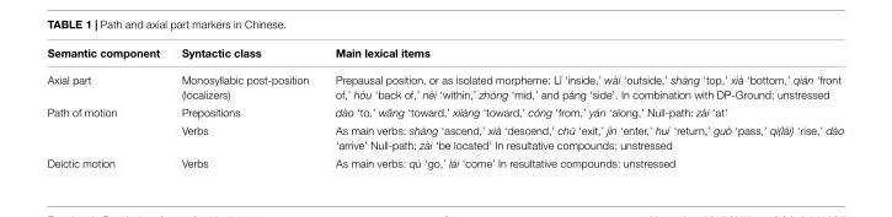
<table><thead><tr><td>Semantic component</td><td>Syntactic class</td><td>Main lexical items</td></tr></thead><tbody><tr><td>Axial part</td><td>Monosyllabic post-position (localizers)</td><td>Prepausal position, or as isolated morpheme: Lˇı ‘inside,’ wài ‘outside,’ shàng ‘top,’ xià ‘bottom,’ qián ‘front of,’ hòu ‘back of,’ nèi ‘within,’ zh ¯ong ‘mid,’ and páng ‘side’. In combination with DP-Ground: unstressed</td></tr><tr><td rowspan="2">Path of motion</td><td>Prepositions</td><td>dào ‘to,’ wãng ‘toward,’ xiiàng ‘toward,’ cóng ‘from,’ yán ‘along,’ Null-path: zài ‘at’</td></tr><tr><td>Verbs</td><td>As main verbs: shàng ‘ascend,’ xià ‘descend,’ ch ¯u ‘exit,’ jìn ‘enter,’ huí ‘return,’ guò ‘pass,’ qi(lái) ‘rise,’ dào ‘arrive’ Null-path: zài ‘be located’ In resultative compounds: unstressed</td></tr><tr><td>Deictic motion</td><td>Verbs</td><td>As main verbs: qù ‘go,’ lái ‘come’ In resultative compounds: unstressed</td></tr></tbody></table>